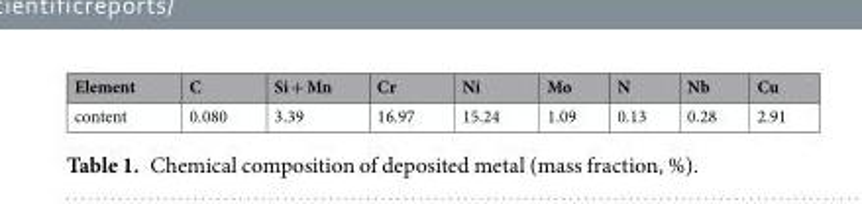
<table><thead><tr><td>Element</td><td>C</td><td>Si + Mn</td><td>Cr</td><td>Ni</td><td>Mo</td><td>N</td><td>Nb</td><td>Cu</td></tr></thead><tbody><tr><td>content</td><td>0.080</td><td>3.39</td><td>16.97</td><td>15.24</td><td>1.09</td><td>0.13</td><td>0.28</td><td>2.91</td></tr></tbody></table>